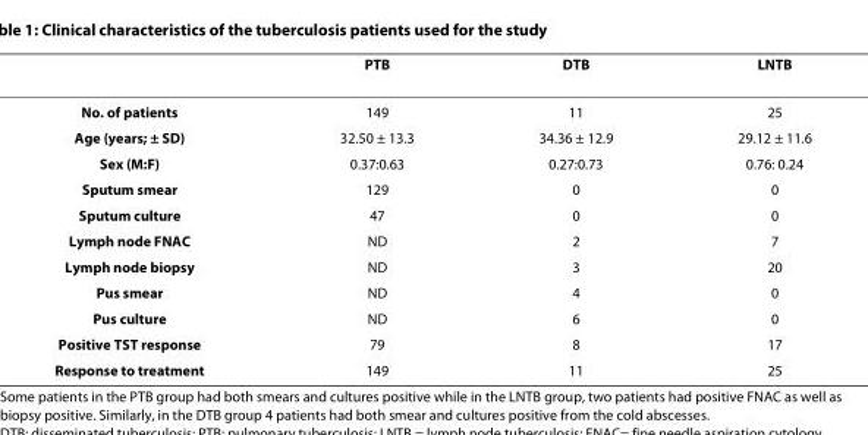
<table><thead><tr><td></td><td>PTB</td><td>DTB</td><td>LNTB</td></tr></thead><tbody><tr><td>No. of patients</td><td>149</td><td>11</td><td>25</td></tr><tr><td>Age (years; ± SD)</td><td>32.50 ± 13.3</td><td>34.36 ± 12.9</td><td>29.12 ± 11.6</td></tr><tr><td>Sex (M:F)</td><td>0.37:0.63</td><td>0.27:0.73</td><td>0.76: 0.24</td></tr><tr><td>Sputum smear</td><td>129</td><td>0</td><td>0</td></tr><tr><td>Sputum culture</td><td>47</td><td>0</td><td>0</td></tr><tr><td>Lymph node FNAC</td><td>ND</td><td>2</td><td>7</td></tr><tr><td>Lymph node biopsy</td><td>ND</td><td>3</td><td>20</td></tr><tr><td>Pus smear</td><td>ND</td><td>4</td><td>0</td></tr><tr><td>Pus culture</td><td>ND</td><td>6</td><td>0</td></tr><tr><td>Positive TST response</td><td>79</td><td>8</td><td>17</td></tr><tr><td>Response to treatment</td><td>149</td><td>11</td><td>25</td></tr></tbody></table>